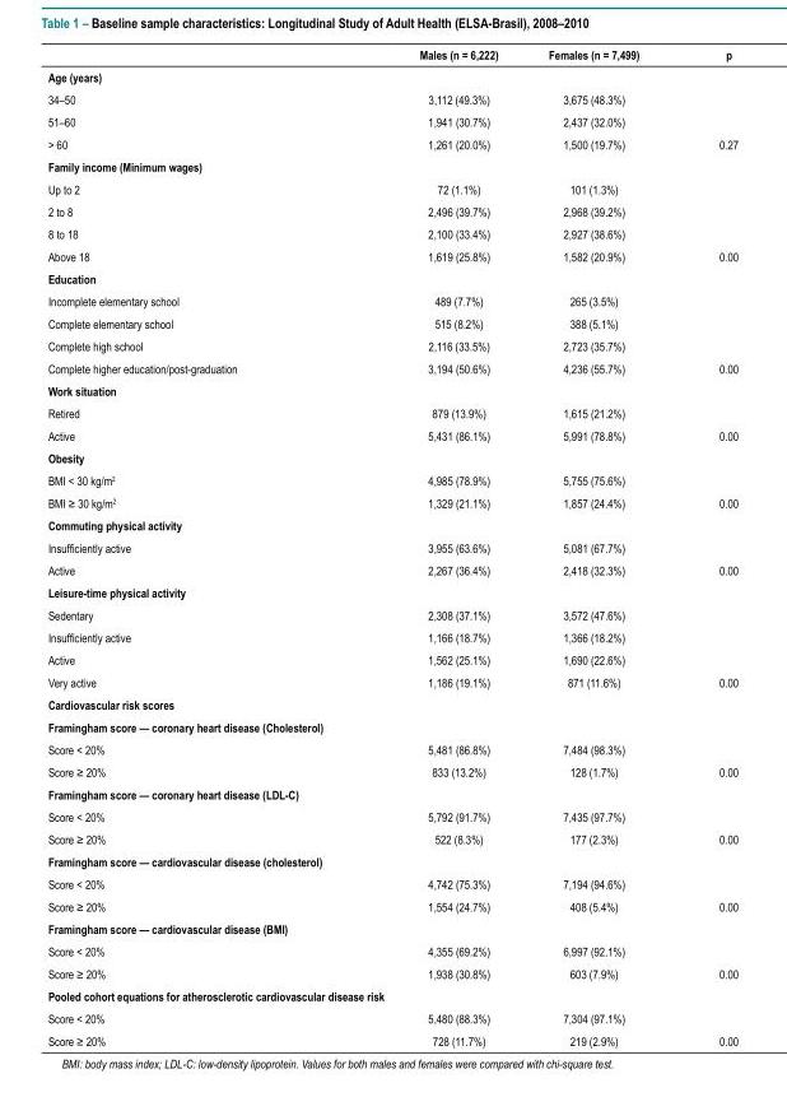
<table><thead><tr><td></td><td>Males (n = 6,222)</td><td>Females (n = 7,499)</td><td>p</td></tr></thead><tbody><tr><td colspan="4">Age (years)</td></tr><tr><td>34–50</td><td>3,112 (49.3%)</td><td>3,675 (48.3%)</td><td></td></tr><tr><td>51–60</td><td>1,941 (30.7%)</td><td>2,437 (32.0%)</td><td></td></tr><tr><td>&gt; 60</td><td>1,261 (20.0%)</td><td>1,500 (19.7%)</td><td>0.27</td></tr><tr><td colspan="4">Family income (Minimum wages)</td></tr><tr><td>Up to 2</td><td>72 (1.1%)</td><td>101 (1.3%)</td><td></td></tr><tr><td>2 to 8</td><td>2,496 (39.7%)</td><td>2,968 (39.2%)</td><td></td></tr><tr><td>8 to 18</td><td>2,100 (33.4%)</td><td>2,927 (38.6%)</td><td></td></tr><tr><td>Above 18</td><td>1,619 (25.8%)</td><td>1,582 (20.9%)</td><td>0.00</td></tr><tr><td colspan="4">Education</td></tr><tr><td>Incomplete elementary school</td><td>489 (7.7%)</td><td>265 (3.5%)</td><td></td></tr><tr><td>Complete elementary school</td><td>515 (8.2%)</td><td>388 (5.1%)</td><td></td></tr><tr><td>Complete high school</td><td>2,116 (33.5%)</td><td>2,723 (35.7%)</td><td></td></tr><tr><td>Complete higher education/post-graduation</td><td>3,194 (50.6%)</td><td>4,236 (55.7%)</td><td>0.00</td></tr><tr><td colspan="4">Work situation</td></tr><tr><td>Retired</td><td>879 (13.9%)</td><td>1,615 (21.2%)</td><td></td></tr><tr><td>Active</td><td>5,431 (86.1%)</td><td>5,991 (78.8%)</td><td>0.00</td></tr><tr><td colspan="4">Obesity</td></tr><tr><td>BMI &lt; 30 kg/m<sup>2</sup></td><td>4,985 (78.9%)</td><td>5,755 (75.6%)</td><td></td></tr><tr><td>BMI ≥ 30 kg/m<sup>2</sup></td><td>1,329 (21.1%)</td><td>1,857 (24.4%)</td><td>0.00</td></tr><tr><td colspan="4">Commuting physical activity</td></tr><tr><td>Insufficiently active</td><td>3,955 (63.6%)</td><td>5,081 (67.7%)</td><td></td></tr><tr><td>Active</td><td>2,267 (36.4%)</td><td>2,418 (32.3%)</td><td>0.00</td></tr><tr><td colspan="4">Leisure-time physical activity</td></tr><tr><td>Sedentary</td><td>2,308 (37.1%)</td><td>3,572 (47.6%)</td><td></td></tr><tr><td>Insufficiently active</td><td>1,166 (18.7%)</td><td>1,366 (18.2%)</td><td></td></tr><tr><td>Active</td><td>1,562 (25.1%)</td><td>1,690 (22.6%)</td><td></td></tr><tr><td>Very active</td><td>1,186 (19.1%)</td><td>871 (11.6%)</td><td>0.00</td></tr><tr><td colspan="4">Cardiovascular risk scores</td></tr><tr><td colspan="4">Framingham score — coronary heart disease (Cholesterol)</td></tr><tr><td>Score &lt; 20%</td><td>5,481 (86.8%)</td><td>7,484 (98.3%)</td><td></td></tr><tr><td>Score ≥ 20%</td><td>833 (13.2%)</td><td>128 (1.7%)</td><td>0.00</td></tr><tr><td colspan="4">Framingham score — coronary heart disease (LDL-C)</td></tr><tr><td>Score &lt; 20%</td><td>5,792 (91.7%)</td><td>7,435 (97.7%)</td><td></td></tr><tr><td>Score ≥ 20%</td><td>522 (8.3%)</td><td>177 (2.3%)</td><td>0.00</td></tr><tr><td colspan="4">Framingham score — cardiovascular disease (cholesterol)</td></tr><tr><td>Score &lt; 20%</td><td>4,742 (75.3%)</td><td>7,194 (94.6%)</td><td></td></tr><tr><td>Score ≥ 20%</td><td>1,554 (24.7%)</td><td>408 (5.4%)</td><td>0.00</td></tr><tr><td colspan="4">Framingham score — cardiovascular disease (BMI)</td></tr><tr><td>Score &lt; 20%</td><td>4,355 (69.2%)</td><td>6,997 (92.1%)</td><td></td></tr><tr><td>Score ≥ 20%</td><td>1,938 (30.8%)</td><td>603 (7.9%)</td><td>0.00</td></tr><tr><td colspan="4">Pooled cohort equations for atherosclerotic cardiovascular disease risk</td></tr><tr><td>Score &lt; 20%</td><td>5,480 (88.3%)</td><td>7,304 (97.1%)</td><td></td></tr><tr><td>Score ≥ 20%</td><td>728 (11.7%)</td><td>219 (2.9%)</td><td>0.00</td></tr></tbody></table>